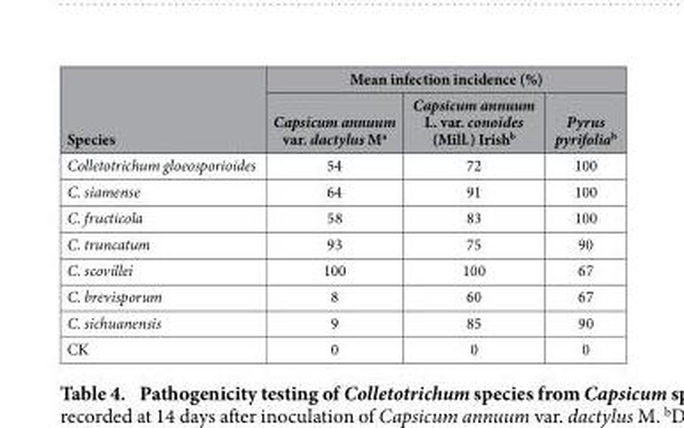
<table><thead><tr><td rowspan="2">Species</td><td colspan="3">Mean infection incidence (%)</td></tr><tr><td>Capsicum annuum var. dactylus M<sup>a</sup></td><td>Capsicum annuum L. var. conoides (Mill.) Irish<sup>b</sup></td><td>Pyrus pyrifolia<sup>b</sup></td></tr></thead><tbody><tr><td>Colletotrichum gloeosporioides</td><td>54</td><td>72</td><td>100</td></tr><tr><td>C. siamense</td><td>64</td><td>91</td><td>100</td></tr><tr><td>C. fructicola</td><td>58</td><td>83</td><td>100</td></tr><tr><td>C. truncatum</td><td>93</td><td>75</td><td>90</td></tr><tr><td>C. scovillei</td><td>100</td><td>100</td><td>67</td></tr><tr><td>C. brevisporum</td><td>8</td><td>60</td><td>67</td></tr><tr><td>C. sichuanensis</td><td>9</td><td>85</td><td>90</td></tr><tr><td>CK</td><td>0</td><td>0</td><td>0</td></tr></tbody></table>